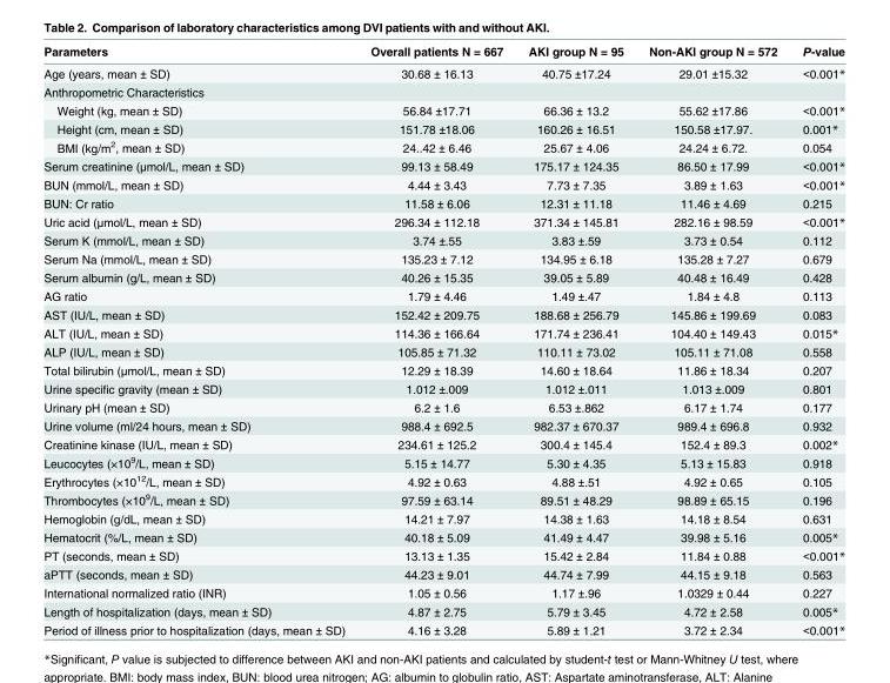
<table><thead><tr><td>Parameters</td><td>Overall patients N = 667</td><td>AKI group N = 95</td><td>Non-AKI group N = 572</td><td>P-value</td></tr></thead><tbody><tr><td>Age (years, mean ± SD)</td><td>30.68 ± 16.13</td><td>40.75 ±17.24</td><td>29.01 ±15.32</td><td>&lt;0.001*</td></tr><tr><td colspan="5">Anthropometric Characteristics</td></tr><tr><td>Weight (kg, mean ± SD)</td><td>56.84 ±17.71</td><td>66.36 ± 13.2</td><td>55.62 ±17.86</td><td>&lt;0.001*</td></tr><tr><td>Height (cm, mean ± SD)</td><td>151.78 ±18.06</td><td>160.26 ± 16.51</td><td>150.58 ±17.97.</td><td>0.001*</td></tr><tr><td>BMI (kg/m<sup>2</sup>, mean ± SD)</td><td>24..42 ± 6.46</td><td>25.67 ± 4.06</td><td>24.24 ± 6.72.</td><td>0.054</td></tr><tr><td>Serum creatinine (μmol/L, mean ± SD)</td><td>99.13 ± 58.49</td><td>175.17 ± 124.35</td><td>86.50 ± 17.99</td><td>&lt;0.001*</td></tr><tr><td>BUN (mmol/L, mean ± SD)</td><td>4.44 ± 3.43</td><td>7.73 ± 7.35</td><td>3.89 ± 1.63</td><td>&lt;0.001*</td></tr><tr><td>BUN: Cr ratio</td><td>11.58 ± 6.06</td><td>12.31 ± 11.18</td><td>11.46 ± 4.69</td><td>0.215</td></tr><tr><td>Uric acid (μmol/L, mean ± SD)</td><td>296.34 ± 112.18</td><td>371.34 ± 145.81</td><td>282.16 ± 98.59</td><td>&lt;0.001*</td></tr><tr><td>Serum K (mmol/L, mean ± SD)</td><td>3.74 ±.55</td><td>3.83 ±.59</td><td>3.73 ± 0.54</td><td>0.112</td></tr><tr><td>Serum Na (mmol/L, mean ± SD)</td><td>135.23 ± 7.12</td><td>134.95 ± 6.18</td><td>135.28 ± 7.27</td><td>0.679</td></tr><tr><td>Serum albumin (g/L, mean ± SD)</td><td>40.26 ± 15.35</td><td>39.05 ± 5.89</td><td>40.48 ± 16.49</td><td>0.428</td></tr><tr><td>AG ratio</td><td>1.79 ± 4.46</td><td>1.49 ±.47</td><td>1.84 ± 4.8</td><td>0.113</td></tr><tr><td>AST (IU/L, mean ± SD)</td><td>152.42 ± 209.75</td><td>188.68 ± 256.79</td><td>145.86 ± 199.69</td><td>0.083</td></tr><tr><td>ALT (IU/L, mean ± SD)</td><td>114.36 ± 166.64</td><td>171.74 ± 236.41</td><td>104.40 ± 149.43</td><td>0.015*</td></tr><tr><td>ALP (IU/L, mean ± SD)</td><td>105.85 ± 71.32</td><td>110.11 ± 73.02</td><td>105.11 ± 71.08</td><td>0.558</td></tr><tr><td>Total bilirubin (μmol/L, mean ± SD)</td><td>12.29 ± 18.39</td><td>14.60 ± 18.64</td><td>11.86 ± 18.34</td><td>0.207</td></tr><tr><td>Urine specific gravity (mean ± SD)</td><td>1.012 ±.009</td><td>1.012 ±.011</td><td>1.013 ±.009</td><td>0.801</td></tr><tr><td>Urinary pH (mean ± SD)</td><td>6.2 ± 1.6</td><td>6.53 ±.862</td><td>6.17 ± 1.74</td><td>0.177</td></tr><tr><td>Urine volume (ml/24 hours, mean ± SD)</td><td>988.4 ± 692.5</td><td>982.37 ± 670.37</td><td>989.4 ± 696.8</td><td>0.932</td></tr><tr><td>Creatinine kinase (IU/L, mean ± SD)</td><td>234.61 ± 125.2</td><td>300.4 ± 145.4</td><td>152.4 ± 89.3</td><td>0.002*</td></tr><tr><td>Leucocytes (×10<sup>9</sup>/L, mean ± SD)</td><td>5.15 ± 14.77</td><td>5.30 ± 4.35</td><td>5.13 ± 15.83</td><td>0.918</td></tr><tr><td>Erythrocytes (×10<sup>12</sup>/L, mean ± SD)</td><td>4.92 ± 0.63</td><td>4.88 ±.51</td><td>4.92 ± 0.65</td><td>0.105</td></tr><tr><td>Thrombocytes (×10<sup>9</sup>/L, mean ± SD)</td><td>97.59 ± 63.14</td><td>89.51 ± 48.29</td><td>98.89 ± 65.15</td><td>0.196</td></tr><tr><td>Hemoglobin (g/dL, mean ± SD)</td><td>14.21 ± 7.97</td><td>14.38 ± 1.63</td><td>14.18 ± 8.54</td><td>0.631</td></tr><tr><td>Hematocrit (%/L, mean ± SD)</td><td>40.18 ± 5.09</td><td>41.49 ± 4.47</td><td>39.98 ± 5.16</td><td>0.005*</td></tr><tr><td>PT (seconds, mean ± SD)</td><td>13.13 ± 1.35</td><td>15.42 ± 2.84</td><td>11.84 ± 0.88</td><td>&lt;0.001*</td></tr><tr><td>aPTT (seconds, mean ± SD)</td><td>44.23 ± 9.01</td><td>44.74 ± 7.99</td><td>44.15 ± 9.18</td><td>0.563</td></tr><tr><td>International normalized ratio (INR)</td><td>1.05 ± 0.56</td><td>1.17 ±.96</td><td>1.0329 ± 0.44</td><td>0.227</td></tr><tr><td>Length of hospitalization (days, mean ± SD)</td><td>4.87 ± 2.75</td><td>5.79 ± 3.45</td><td>4.72 ± 2.58</td><td>0.005*</td></tr><tr><td>Period of illness prior to hospitalization (days, mean ± SD)</td><td>4.16 ± 3.28</td><td>5.89 ± 1.21</td><td>3.72 ± 2.34</td><td>&lt;0.001*</td></tr></tbody></table>